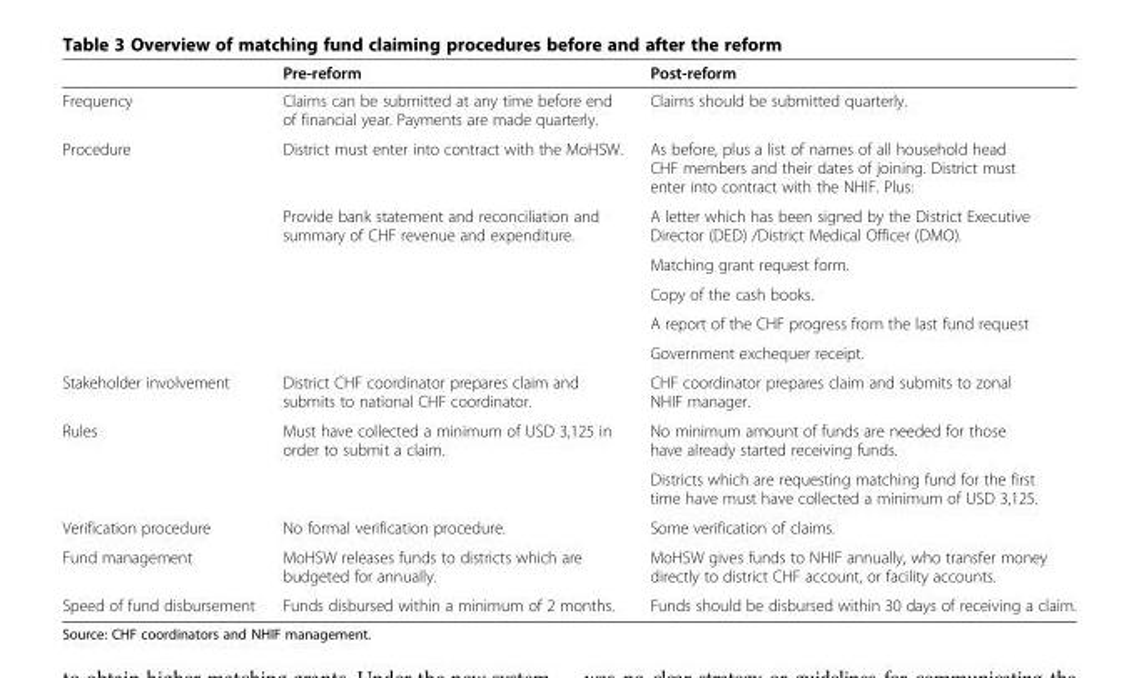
<table><thead><tr><td></td><td>Pre-reform</td><td>Post-reform</td></tr></thead><tbody><tr><td>Frequency</td><td>Claims can be submitted at any time before end of financial year. Payments are made quarterly.</td><td>Claims should be submitted quarterly.</td></tr><tr><td rowspan="6">Procedure</td><td>District must enter into contract with the MoHSW.</td><td>As before, plus a list of names of all household head CHF members and their dates of joining. District must enter into contract with the NHIF. Plus:</td></tr><tr><td>Provide bank statement and reconciliation and summary of CHF revenue and expenditure.</td><td>A letter which has been signed by the District Executive Director (DED) /District Medical Officer (DMO).</td></tr><tr><td rowspan="4"></td><td>Matching grant request form.</td></tr><tr><td>Copy of the cash books.</td></tr><tr><td>A report of the CHF progress from the last fund request</td></tr><tr><td>Government exchequer receipt.</td></tr><tr><td>Stakeholder involvement</td><td>District CHF coordinator prepares claim and submits to national CHF coordinator.</td><td>CHF coordinator prepares claim and submits to zonal NHIF manager.</td></tr><tr><td rowspan="2">Rules</td><td rowspan="2">Must have collected a minimum of USD 3,125 in order to submit a claim.</td><td>No minimum amount of funds are needed for those have already started receiving funds.</td></tr><tr><td>Districts which are requesting matching fund for the first time have must have collected a minimum of USD 3,125.</td></tr><tr><td>Verification procedure</td><td>No formal verification procedure.</td><td>Some verification of claims.</td></tr><tr><td>Fund management</td><td>MoHSW releases funds to districts which are budgeted for annually.</td><td>MoHSW gives funds to NHIF annually, who transfer money directly to district CHF account, or facility accounts.</td></tr><tr><td>Speed of fund disbursement</td><td>Funds disbursed within a minimum of 2 months.</td><td>Funds should be disbursed within 30 days of receiving a claim.</td></tr></tbody></table>